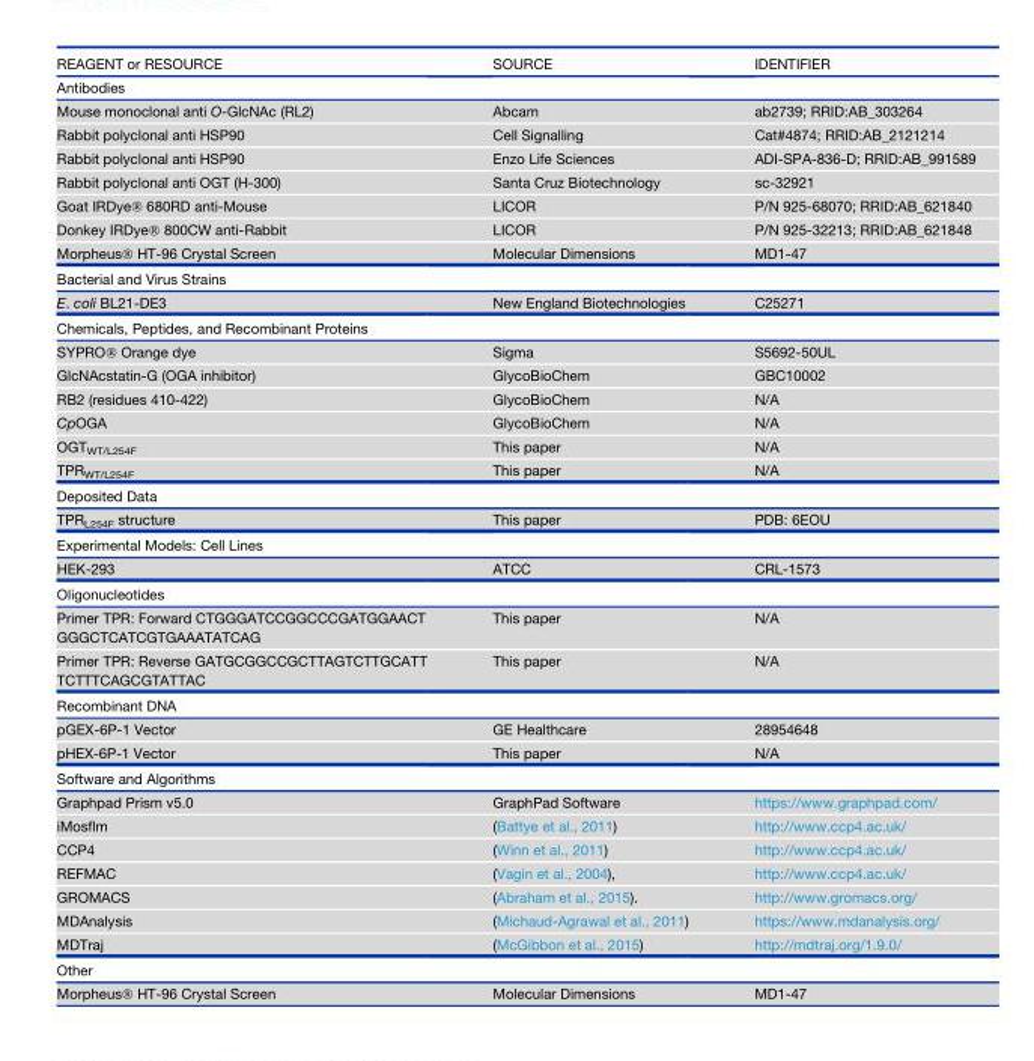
<table><thead><tr><td>REAGENT or RESOURCE</td><td>SOURCE</td><td>IDENTIFIER</td></tr></thead><tbody><tr><td colspan="3">Antibodies</td></tr><tr><td>Mouse monoclonal anti O-GlcNAc (RL2)</td><td>Abcam</td><td>ab2739; RRID:AB_303264</td></tr><tr><td>Rabbit polyclonal anti HSP90</td><td>Cell Signalling</td><td>Cat#4874; RRID:AB_2121214</td></tr><tr><td>Rabbit polyclonal anti HSP90</td><td>Enzo Life Sciences</td><td>ADI-SPA-836-D; RRID:AB_991589</td></tr><tr><td>Rabbit polyclonal anti OGT (H-300)</td><td>Santa Cruz Biotechnology</td><td>sc-32921</td></tr><tr><td>Goat IRDye® 680RD anti-Mouse</td><td>LICOR</td><td>P/N 925-68070; RRID:AB_621840</td></tr><tr><td>Donkey IRDye® 800CW anti-Rabbit</td><td>LICOR</td><td>P/N 925-32213; RRID:AB_621848</td></tr><tr><td>Morpheus® HT-96 Crystal Screen</td><td>Molecular Dimensions</td><td>MD1-47</td></tr><tr><td colspan="3">Bacterial and Virus Strains</td></tr><tr><td>E. coli BL21-DE3</td><td>New England Biotechnologies</td><td>C25271</td></tr><tr><td colspan="3">Chemicals, Peptides, and Recombinant Proteins</td></tr><tr><td>SYPRO® Orange dye</td><td>Sigma</td><td>S5692-50UL</td></tr><tr><td>GlcNAcstatin-G (OGA inhibitor)</td><td>GlycoBioChem</td><td>GBC10002</td></tr><tr><td>RB2 (residues 410-422)</td><td>GlycoBioChem</td><td>N/A</td></tr><tr><td>CpOGA</td><td>GlycoBioChem</td><td>N/A</td></tr><tr><td>OGT<sub>WT/L254F</sub></td><td>This paper</td><td>N/A</td></tr><tr><td>TPR<sub>WT/L254F</sub></td><td>This paper</td><td>N/A</td></tr><tr><td colspan="3">Deposited Data</td></tr><tr><td>TPR<sub>L254F</sub> structure</td><td>This paper</td><td>PDB: 6EOU</td></tr><tr><td colspan="3">Experimental Models: Cell Lines</td></tr><tr><td>HEK-293</td><td>ATCC</td><td>CRL-1573</td></tr><tr><td colspan="3">Oligonucleotides</td></tr><tr><td>Primer TPR: Forward CTGGGATCCGGCCCGATGGAACT GGGCTCATCGTGAAATATCAG</td><td>This paper</td><td>N/A</td></tr><tr><td>Primer TPR: Reverse GATGCGGCCGCTTAGTCTTGCATT TCTTTCAGCGTATTAC</td><td>This paper</td><td>N/A</td></tr><tr><td colspan="3">Recombinant DNA</td></tr><tr><td>pGEX-6P-1 Vector</td><td>GE Healthcare</td><td>28954648</td></tr><tr><td>pHEX-6P-1 Vector</td><td>This paper</td><td>N/A</td></tr><tr><td colspan="3">Software and Algorithms</td></tr><tr><td>Graphpad Prism v5.0</td><td>GraphPad Software</td><td>https://www.graphpad.com/</td></tr><tr><td>iMosflm</td><td>(Battye et al., 2011)</td><td>http://www.ccp4.ac.uk/</td></tr><tr><td>CCP4</td><td>(Winn et al., 2011)</td><td>http://www.ccp4.ac.uk/</td></tr><tr><td>REFMAC</td><td>(Vagin et al., 2004),</td><td>http://www.ccp4.ac.uk/</td></tr><tr><td>GROMACS</td><td>(Abraham et al., 2015).</td><td>http://www.gromacs.org/</td></tr><tr><td>MDAnalysis</td><td>(Michaud-Agrawal et al., 2011)</td><td>https://www.mdanalysis.org/</td></tr><tr><td>MDTraj</td><td>(McGibbon et al., 2015)</td><td>http://mdtraj.org/1.9.0/</td></tr><tr><td colspan="3">Other</td></tr><tr><td>Morpheus® HT-96 Crystal Screen</td><td>Molecular Dimensions</td><td>MD1-47</td></tr></tbody></table>